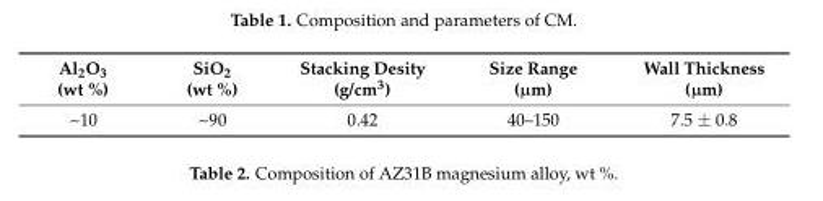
<table><thead><tr><td>Al<sub>2</sub>O<sub>3</sub> (wt %)</td><td>SiO<sub>2</sub> (wt %)</td><td>Stacking Desity (g/cm<sup>3</sup>)</td><td>Size Range (µm)</td><td>Wall Thickness (µm)</td></tr></thead><tbody><tr><td>~10</td><td>~90</td><td>0.42</td><td>40–150</td><td>7.5 ± 0.8</td></tr></tbody></table>